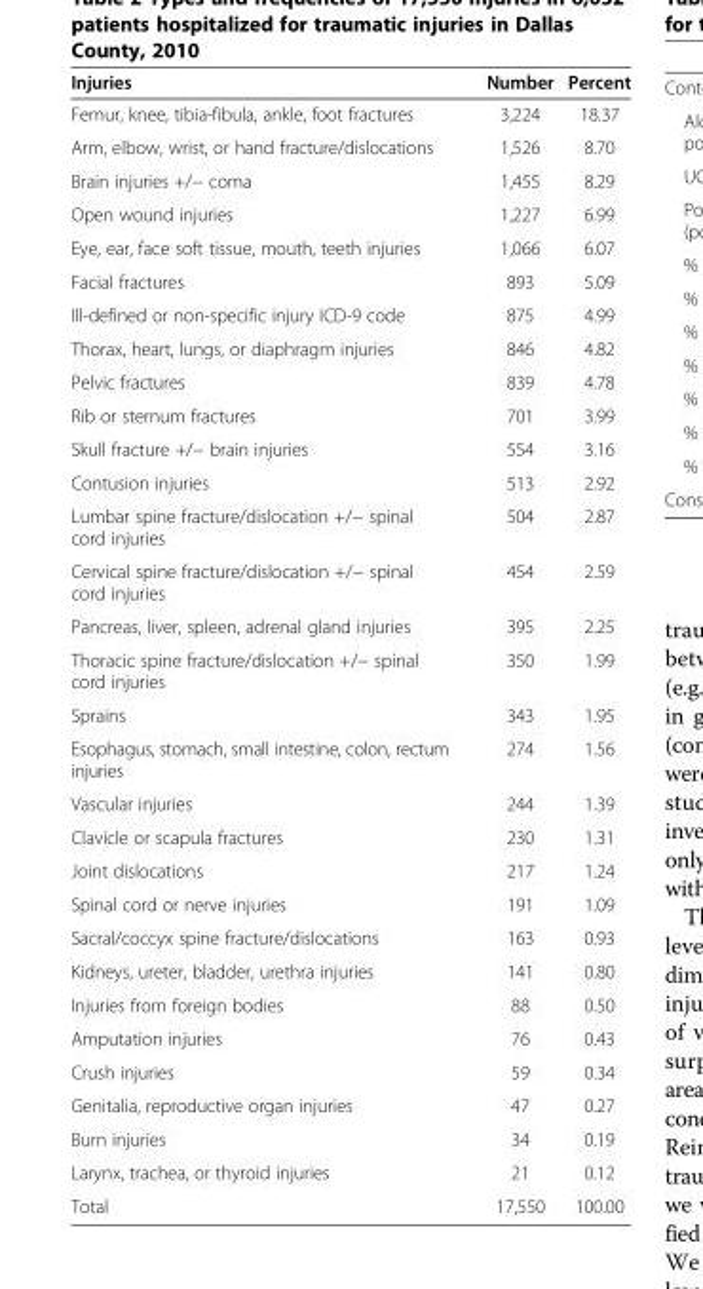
<table><thead><tr><td>Injuries</td><td>Number</td><td>Percent</td></tr></thead><tbody><tr><td>Femur, knee, tibia-fibula, ankle, foot fractures</td><td>3,224</td><td>18.37</td></tr><tr><td>Arm, elbow, wrist, or hand fracture/dislocations</td><td>1,526</td><td>8.70</td></tr><tr><td>Brain injuries +/− coma</td><td>1,455</td><td>8.29</td></tr><tr><td>Open wound injuries</td><td>1,227</td><td>6.99</td></tr><tr><td>Eye, ear, face soft tissue, mouth, teeth injuries</td><td>1,066</td><td>6.07</td></tr><tr><td>Facial fractures</td><td>893</td><td>5.09</td></tr><tr><td>Ill-defined or non-specific injury ICD-9 code</td><td>875</td><td>4.99</td></tr><tr><td>Thorax, heart, lungs, or diaphragm injuries</td><td>846</td><td>4.82</td></tr><tr><td>Pelvic fractures</td><td>839</td><td>4.78</td></tr><tr><td>Rib or sternum fractures</td><td>701</td><td>3.99</td></tr><tr><td>Skull fracture +/− brain injuries</td><td>554</td><td>3.16</td></tr><tr><td>Contusion injuries</td><td>513</td><td>2.92</td></tr><tr><td>Lumbar spine fracture/dislocation +/− spinal cord injuries</td><td>504</td><td>2.87</td></tr><tr><td>Cervical spine fracture/dislocation +/− spinal cord injuries</td><td>454</td><td>2.59</td></tr><tr><td>Pancreas, liver, spleen, adrenal gland injuries</td><td>395</td><td>2.25</td></tr><tr><td>Thoracic spine fracture/dislocation +/− spinal cord injuries</td><td>350</td><td>1.99</td></tr><tr><td>Sprains</td><td>343</td><td>1.95</td></tr><tr><td>Esophagus, stomach, small intestine, colon, rectum injuries</td><td>274</td><td>1.56</td></tr><tr><td>Vascular injuries</td><td>244</td><td>1.39</td></tr><tr><td>Clavicle or scapula fractures</td><td>230</td><td>1.31</td></tr><tr><td>Joint dislocations</td><td>217</td><td>1.24</td></tr><tr><td>Spinal cord or nerve injuries</td><td>191</td><td>1.09</td></tr><tr><td>Sacral/coccyx spine fracture/dislocations</td><td>163</td><td>0.93</td></tr><tr><td>Kidneys, ureter, bladder, urethra injuries</td><td>141</td><td>0.80</td></tr><tr><td>Injuries from foreign bodies</td><td>88</td><td>0.50</td></tr><tr><td>Amputation injuries</td><td>76</td><td>0.43</td></tr><tr><td>Crush injuries</td><td>59</td><td>0.34</td></tr><tr><td>Genitalia, reproductive organ injuries</td><td>47</td><td>0.27</td></tr><tr><td>Burn injuries</td><td>34</td><td>0.19</td></tr><tr><td>Larynx, trachea, or thyroid injuries</td><td>21</td><td>0.12</td></tr><tr><td>Total</td><td>17,550</td><td>100.00</td></tr></tbody></table>